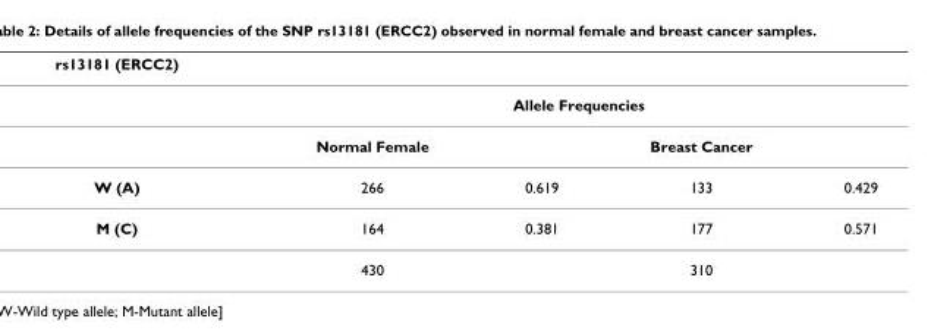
<table><thead><tr><td>rs13181 (ERCC2)</td><td></td><td></td><td></td><td></td></tr></thead><tbody><tr><td></td><td colspan="4">Allele Frequencies</td></tr><tr><td></td><td>Normal Female</td><td></td><td>Breast Cancer</td><td></td></tr><tr><td>W (A)</td><td>266</td><td>0.619</td><td>133</td><td>0.429</td></tr><tr><td rowspan="2">M (C)</td><td>164</td><td>0.381</td><td>177</td><td>0.571</td></tr><tr><td>430</td><td></td><td>310</td><td></td></tr></tbody></table>